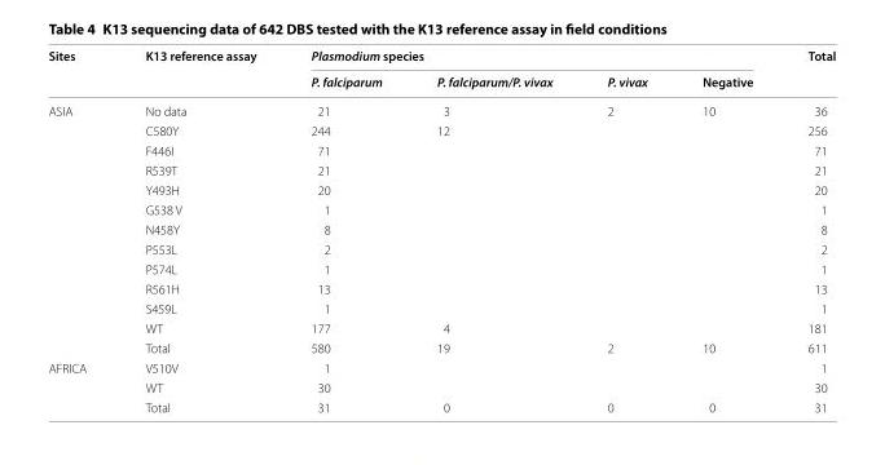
<table><thead><tr><td rowspan="2">Sites</td><td rowspan="2">K13 reference assay</td><td colspan="4">Plasmodium species</td><td rowspan="2">Total</td></tr><tr><td>P. falciparum</td><td>P. falciparum/P. vivax</td><td>P. vivax</td><td>Negative</td></tr></thead><tbody><tr><td rowspan="13">ASIA</td><td>No data</td><td>21</td><td>3</td><td>2</td><td>10</td><td>36</td></tr><tr><td>C580Y</td><td>244</td><td>12</td><td></td><td></td><td>256</td></tr><tr><td>F446I</td><td>71</td><td></td><td></td><td></td><td>71</td></tr><tr><td>R539T</td><td>21</td><td></td><td></td><td></td><td>21</td></tr><tr><td>Y493H</td><td>20</td><td></td><td></td><td></td><td>20</td></tr><tr><td>G538 V</td><td>1</td><td></td><td></td><td></td><td>1</td></tr><tr><td>N458Y</td><td>8</td><td></td><td></td><td></td><td>8</td></tr><tr><td>P553L</td><td>2</td><td></td><td></td><td></td><td>2</td></tr><tr><td>P574L</td><td>1</td><td></td><td></td><td></td><td>1</td></tr><tr><td>R561H</td><td>13</td><td></td><td></td><td></td><td>13</td></tr><tr><td>S459L</td><td>1</td><td></td><td></td><td></td><td>1</td></tr><tr><td>WT</td><td>177</td><td>4</td><td></td><td></td><td>181</td></tr><tr><td>Total</td><td>580</td><td>19</td><td>2</td><td>10</td><td>611</td></tr><tr><td rowspan="3">AFRICA</td><td>V510V</td><td>1</td><td></td><td></td><td></td><td>1</td></tr><tr><td>WT</td><td>30</td><td></td><td></td><td></td><td>30</td></tr><tr><td>Total</td><td>31</td><td>0</td><td>0</td><td>0</td><td>31</td></tr></tbody></table>